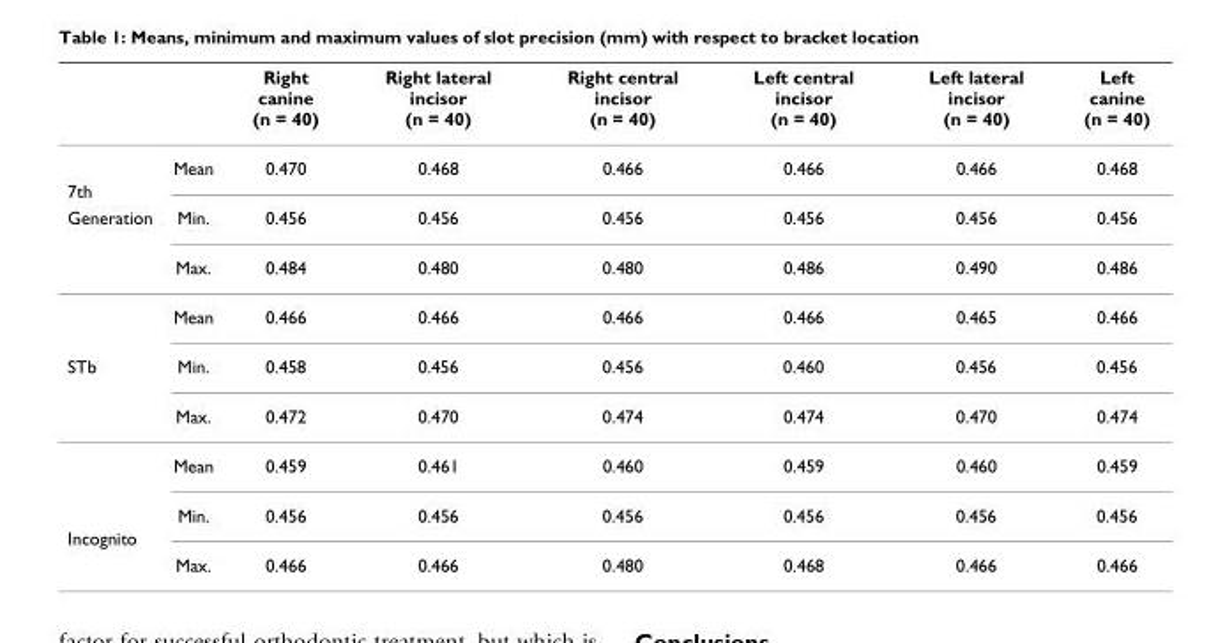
<table><thead><tr><td></td><td></td><td>Right canine (n = 40)</td><td>Right lateral incisor (n = 40)</td><td>Right central incisor (n = 40)</td><td>Left central incisor (n = 40)</td><td>Left lateral incisor (n = 40)</td><td>Left canine (n = 40)</td></tr></thead><tbody><tr><td></td><td>Mean</td><td>0.470</td><td>0.468</td><td>0.466</td><td>0.466</td><td>0.466</td><td>0.468</td></tr><tr><td colspan="8">7th</td></tr><tr><td rowspan="3">Generation</td><td>Min.</td><td>0.456</td><td>0.456</td><td>0.456</td><td>0.456</td><td>0.456</td><td>0.456</td></tr><tr><td>Max.</td><td>0.484</td><td>0.480</td><td>0.480</td><td>0.486</td><td>0.490</td><td>0.486</td></tr><tr><td>Mean</td><td>0.466</td><td>0.466</td><td>0.466</td><td>0.466</td><td>0.465</td><td>0.466</td></tr><tr><td rowspan="4">STb</td><td>Min.</td><td>0.458</td><td>0.456</td><td>0.456</td><td>0.460</td><td>0.456</td><td>0.456</td></tr><tr><td>Max.</td><td>0.472</td><td>0.470</td><td>0.474</td><td>0.474</td><td>0.470</td><td>0.474</td></tr><tr><td>Mean</td><td>0.459</td><td>0.461</td><td>0.460</td><td>0.459</td><td>0.460</td><td>0.459</td></tr><tr><td>Min.</td><td>0.456</td><td>0.456</td><td>0.456</td><td>0.456</td><td>0.456</td><td>0.456</td></tr><tr><td colspan="8">Incognito</td></tr><tr><td></td><td>Max.</td><td>0.466</td><td>0.466</td><td>0.480</td><td>0.468</td><td>0.466</td><td>0.466</td></tr></tbody></table>